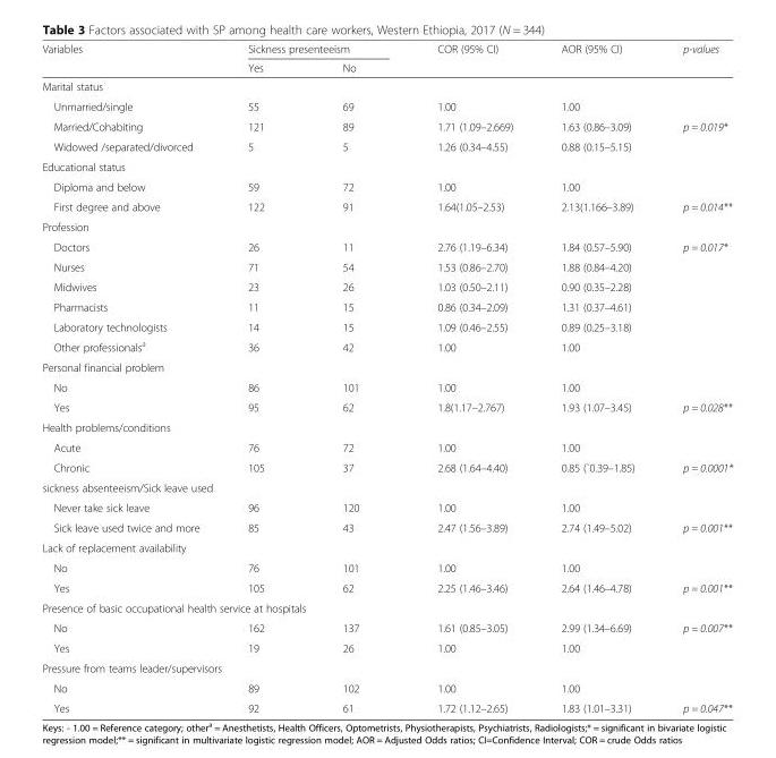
<table><thead><tr><td rowspan="2">Variables</td><td colspan="2">Sickness presenteeism</td><td rowspan="2">COR (95% CI)</td><td rowspan="2">AOR (95% CI)</td><td rowspan="2">p-values</td></tr><tr><td>Yes</td><td>No</td></tr></thead><tbody><tr><td colspan="6">Marital status</td></tr><tr><td>Unmarried/single</td><td>55</td><td>69</td><td>1.00</td><td>1.00</td><td></td></tr><tr><td>Married/Cohabiting</td><td>121</td><td>89</td><td>1.71 (1.09–2.669)</td><td>1.63 (0.86–3.09)</td><td>p = 0.019*</td></tr><tr><td>Widowed /separated/divorced</td><td>5</td><td>5</td><td>1.26 (0.34–4.55)</td><td>0.88 (0.15–5.15)</td><td></td></tr><tr><td colspan="6">Educational status</td></tr><tr><td>Diploma and below</td><td>59</td><td>72</td><td>1.00</td><td>1.00</td><td></td></tr><tr><td>First degree and above</td><td>122</td><td>91</td><td>1.64(1.05–2.53)</td><td>2.13(1.166–3.89)</td><td>p = 0.014**</td></tr><tr><td colspan="6">Profession</td></tr><tr><td>Doctors</td><td>26</td><td>11</td><td>2.76 (1.19–6.34)</td><td>1.84 (0.57–5.90)</td><td>p = 0.017*</td></tr><tr><td>Nurses</td><td>71</td><td>54</td><td>1.53 (0.86–2.70)</td><td>1.88 (0.84–4.20)</td><td></td></tr><tr><td>Midwives</td><td>23</td><td>26</td><td>1.03 (0.50–2.11)</td><td>0.90 (0.35–2.28)</td><td></td></tr><tr><td>Pharmacists</td><td>11</td><td>15</td><td>0.86 (0.34–2.09)</td><td>1.31 (0.37–4.61)</td><td></td></tr><tr><td>Laboratory technologists</td><td>14</td><td>15</td><td>1.09 (0.46–2.55)</td><td>0.89 (0.25–3.18)</td><td></td></tr><tr><td>Other professionals<sup>a</sup></td><td>36</td><td>42</td><td>1.00</td><td>1.00</td><td></td></tr><tr><td colspan="6">Personal financial problem</td></tr><tr><td>No</td><td>86</td><td>101</td><td>1.00</td><td>1.00</td><td></td></tr><tr><td>Yes</td><td>95</td><td>62</td><td>1.8(1.17–2.767)</td><td>1.93 (1.07–3.45)</td><td>p = 0.028**</td></tr><tr><td colspan="6">Health problems/conditions</td></tr><tr><td>Acute</td><td>76</td><td>72</td><td>1.00</td><td>1.00</td><td></td></tr><tr><td>Chronic</td><td>105</td><td>37</td><td>2.68 (1.64–4.40)</td><td>0.85 (`0.39–1.85)</td><td>p = 0.0001*</td></tr><tr><td colspan="6">sickness absenteeism/Sick leave used</td></tr><tr><td>Never take sick leave</td><td>96</td><td>120</td><td>1.00</td><td>1.00</td><td></td></tr><tr><td>Sick leave used twice and more</td><td>85</td><td>43</td><td>2.47 (1.56–3.89)</td><td>2.74 (1.49–5.02)</td><td>p = 0.001**</td></tr><tr><td colspan="6">Lack of replacement availability</td></tr><tr><td>No</td><td>76</td><td>101</td><td>1.00</td><td>1.00</td><td></td></tr><tr><td>Yes</td><td>105</td><td>62</td><td>2.25 (1.46–3.46)</td><td>2.64 (1.46–4.78)</td><td>p = 0.001**</td></tr><tr><td colspan="6">Presence of basic occupational health service at hospitals</td></tr><tr><td>No</td><td>162</td><td>137</td><td>1.61 (0.85–3.05)</td><td>2.99 (1.34–6.69)</td><td>p = 0.007**</td></tr><tr><td>Yes</td><td>19</td><td>26</td><td>1.00</td><td>1.00</td><td></td></tr><tr><td colspan="6">Pressure from teams leader/supervisors</td></tr><tr><td>No</td><td>89</td><td>102</td><td>1.00</td><td>1.00</td><td></td></tr><tr><td>Yes</td><td>92</td><td>61</td><td>1.72 (1.12–2.65)</td><td>1.83 (1.01–3.31)</td><td>p = 0.047**</td></tr></tbody></table>